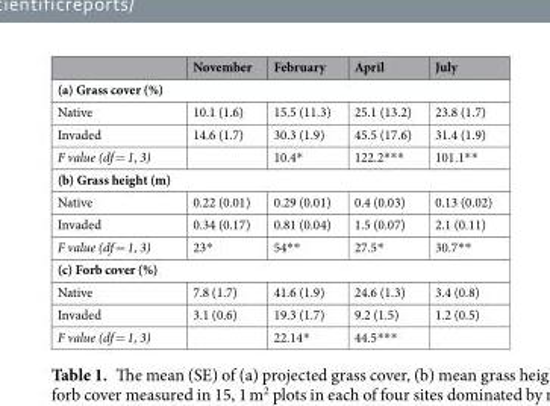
<table><thead><tr><td></td><td>November</td><td>February</td><td>April</td><td>July</td></tr></thead><tbody><tr><td colspan="5">(a) Grass cover (%)</td></tr><tr><td>Native</td><td>10.1 (1.6)</td><td>15.5 (11.3)</td><td>25.1 (13.2)</td><td>23.8 (1.7)</td></tr><tr><td>Invaded</td><td>14.6 (1.7)</td><td>30.3 (1.9)</td><td>45.5 (17.6)</td><td>31.4 (1.9)</td></tr><tr><td>F value (df = 1, 3)</td><td></td><td>10.4*</td><td>122.2***</td><td>101.1**</td></tr><tr><td colspan="5">(b) Grass height (m)</td></tr><tr><td>Native</td><td>0.22 (0.01)</td><td>0.29 (0.01)</td><td>0.4 (0.03)</td><td>0.13 (0.02)</td></tr><tr><td>Invaded</td><td>0.34 (0.17)</td><td>0.81 (0.04)</td><td>1.5 (0.07)</td><td>2.1 (0.11)</td></tr><tr><td>F value (df = 1, 3)</td><td>23*</td><td>54**</td><td>27.5*</td><td>30.7**</td></tr><tr><td colspan="5">(c) Forb cover (%)</td></tr><tr><td>Native</td><td>7.8 (1.7)</td><td>41.6 (1.9)</td><td>24.6 (1.3)</td><td>3.4 (0.8)</td></tr><tr><td>Invaded</td><td>3.1 (0.6)</td><td>19.3 (1.7)</td><td>9.2 (1.5)</td><td>1.2 (0.5)</td></tr><tr><td>F value (df = 1, 3)</td><td></td><td>22.14*</td><td>44.5***</td><td></td></tr></tbody></table>